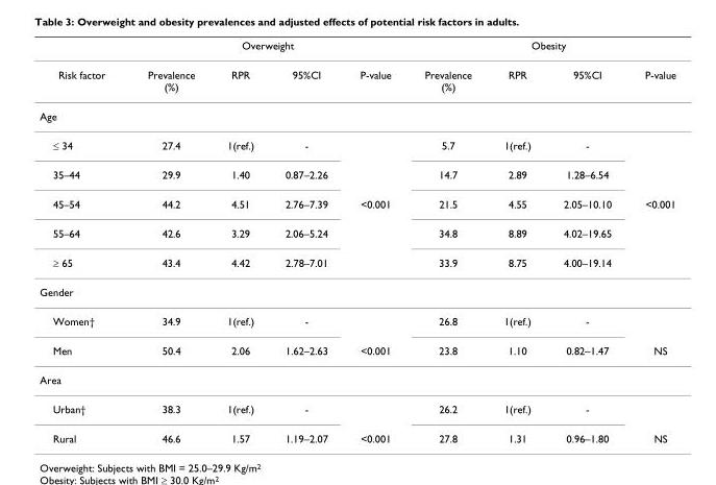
<table><thead><tr><td rowspan="2">Risk factor</td><td colspan="4">Overweight</td><td colspan="4">Obesity</td></tr><tr><td>Prevalence (%)</td><td>RPR</td><td>95%CI</td><td>P-value</td><td>Prevalence (%)</td><td>RPR</td><td>95%CI</td><td>P-value</td></tr></thead><tbody><tr><td colspan="9">Age</td></tr><tr><td>≤ 34</td><td>27.4</td><td>1(ref.)</td><td>-</td><td></td><td>5.7</td><td>1(ref.)</td><td>-</td><td></td></tr><tr><td>35–44</td><td>29.9</td><td>1.40</td><td>0.87–2.26</td><td></td><td>14.7</td><td>2.89</td><td>1.28–6.54</td><td></td></tr><tr><td>45–54</td><td>44.2</td><td>4.51</td><td>2.76–7.39</td><td>&lt;0.001</td><td>21.5</td><td>4.55</td><td>2.05–10.10</td><td>&lt;0.001</td></tr><tr><td>55–64</td><td>42.6</td><td>3.29</td><td>2.06–5.24</td><td></td><td>34.8</td><td>8.89</td><td>4.02–19.65</td><td></td></tr><tr><td>≥ 65</td><td>43.4</td><td>4.42</td><td>2.78–7.01</td><td></td><td>33.9</td><td>8.75</td><td>4.00–19.14</td><td></td></tr><tr><td colspan="9">Gender</td></tr><tr><td>Women†</td><td>34.9</td><td>1(ref.)</td><td>-</td><td></td><td>26.8</td><td>1(ref.)</td><td>-</td><td></td></tr><tr><td>Men</td><td>50.4</td><td>2.06</td><td>1.62–2.63</td><td>&lt;0.001</td><td>23.8</td><td>1.10</td><td>0.82–1.47</td><td>NS</td></tr><tr><td colspan="9">Area</td></tr><tr><td>Urban†</td><td>38.3</td><td>1(ref.)</td><td>-</td><td></td><td>26.2</td><td>1(ref.)</td><td>-</td><td></td></tr><tr><td>Rural</td><td>46.6</td><td>1.57</td><td>1.19–2.07</td><td>&lt;0.001</td><td>27.8</td><td>1.31</td><td>0.96–1.80</td><td>NS</td></tr></tbody></table>